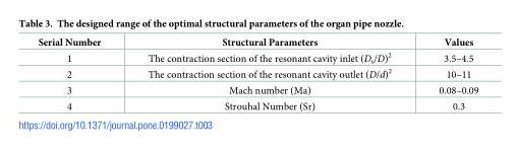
<table><thead><tr><td>Serial Number</td><td>Structural Parameters</td><td>Values</td></tr></thead><tbody><tr><td>1</td><td>The contraction section of the resonant cavity inlet (D<sub>s</sub>/D)<sup>2</sup></td><td>3.5–4.5</td></tr><tr><td>2</td><td>The contraction section of the resonant cavity outlet (D/d)<sup>2</sup></td><td>10–11</td></tr><tr><td>3</td><td>Mach number (Ma)</td><td>0.08–0.09</td></tr><tr><td>4</td><td>Strouhal Number (Sr)</td><td>0.3</td></tr></tbody></table>